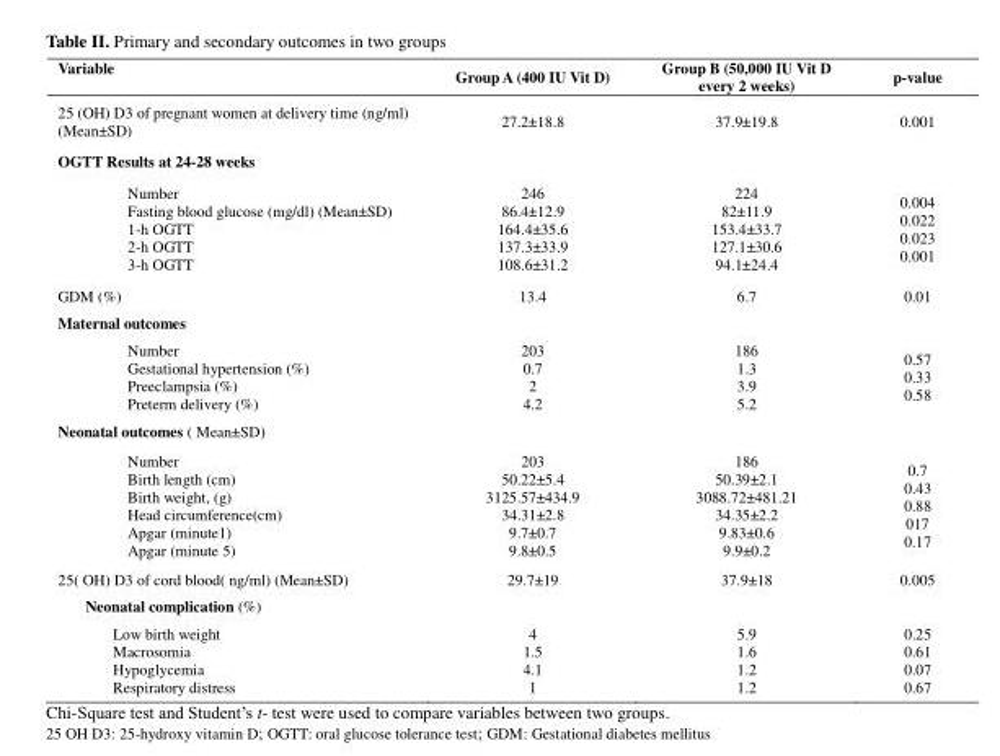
<table><thead><tr><td>Variable</td><td>Group A (400 IU Vit D)</td><td>Group B (50,000 IU Vit D every 2 weeks)</td><td>p-value</td></tr></thead><tbody><tr><td>25 (OH) D3 of pregnant women at delivery time (ng/ml) (Mean±SD)</td><td>27.2±18.8</td><td>37.9±19.8</td><td>0.001</td></tr><tr><td colspan="4">OGTT Results at 24-28 weeks</td></tr><tr><td>Number Fasting blood glucose (mg/dl) (Mean±SD) 1-h OGTT 2-h OGTT 3-h OGTT</td><td>246 86.4±12.9 164.4±35.6 137.3±33.9 108.6±31.2</td><td>224 82±11.9 153.4±33.7 127.1±30.6 94.1±24.4</td><td>0.004 0.022 0.023 0.001</td></tr><tr><td>GDM (%)</td><td>13.4</td><td>6.7</td><td>0.01</td></tr><tr><td colspan="4">Maternal outcomes</td></tr><tr><td>Number Gestational hypertension (%) Preeclampsia (%) Preterm delivery (%)</td><td>203 0.7 2 4.2</td><td>186 1.3 3.9 5.2</td><td>0.57 0.33 0.58</td></tr><tr><td colspan="4">Neonatal outcomes ( Mean±SD)</td></tr><tr><td>Number Birth length (cm) Birth weight, (g) Head circumference(cm) Apgar (minute1) Apgar (minute 5)</td><td>203 50.22±5.4 3125.57±434.9 34.31±2.8 9.7±0.7 9.8±0.5</td><td>186 50.39±2.1 3088.72±481.21 34.35±2.2 9.83±0.6 9.9±0.2</td><td>0.7 0.43 0.88 017 0.17</td></tr><tr><td>25( OH) D3 of cord blood( ng/ml) (Mean±SD)</td><td>29.7±19</td><td>37.9±18</td><td>0.005</td></tr><tr><td colspan="4">Neonatal complication (%)</td></tr><tr><td>Low birth weight Macrosomia Hypoglycemia Respiratory distress</td><td>4 1.5 4.1 1</td><td>5.9 1.6 1.2 1.2</td><td>0.25 0.61 0.07 0.67</td></tr></tbody></table>